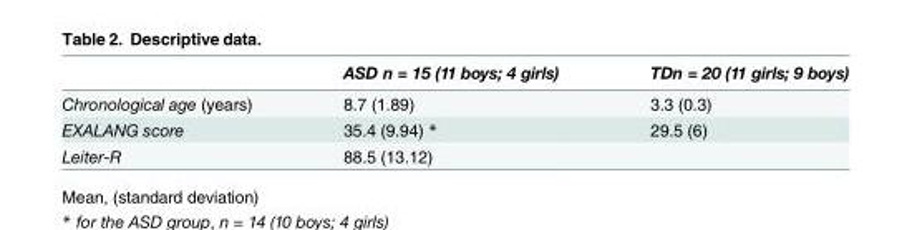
<table><thead><tr><td></td><td>ASD n = 15 (11 boys; 4 girls)</td><td>TDn = 20 (11 girls; 9 boys)</td></tr></thead><tbody><tr><td>Chronological age (years)</td><td>8.7 (1.89)</td><td>3.3 (0.3)</td></tr><tr><td>EXALANG score</td><td>35.4 (9.94) *</td><td>29.5 (6)</td></tr><tr><td>Leiter-R</td><td>88.5 (13.12)</td><td></td></tr></tbody></table>